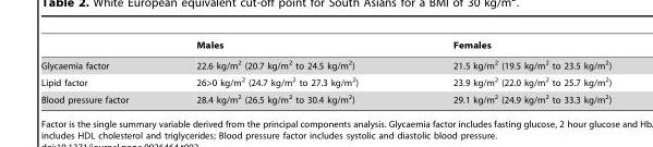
<table><thead><tr><td></td><td>Males</td><td>Females</td></tr></thead><tbody><tr><td>Glycaemia factor</td><td>22.6 kg/m<sup>2</sup> (20.7 kg/m<sup>2</sup> to 24.5 kg/m<sup>2</sup>)</td><td>21.5 kg/m<sup>2</sup> (19.5 kg/m<sup>2</sup> to 23.5 kg/m<sup>2</sup>)</td></tr><tr><td>Lipid factor</td><td>26&gt;0 kg/m<sup>2</sup> (24.7 kg/m<sup>2</sup> to 27.3 kg/m<sup>2</sup>)</td><td>23.9 kg/m<sup>2</sup> (22.0 kg/m<sup>2</sup> to 25.7 kg/m<sup>2</sup>)</td></tr><tr><td>Blood pressure factor</td><td>28.4 kg/m<sup>2</sup> (26.5 kg/m<sup>2</sup> to 30.4 kg/m<sup>2</sup>)</td><td>29.1 kg/m<sup>2</sup> (24.9 kg/m<sup>2</sup> to 33.3 kg/m<sup>2</sup>)</td></tr></tbody></table>